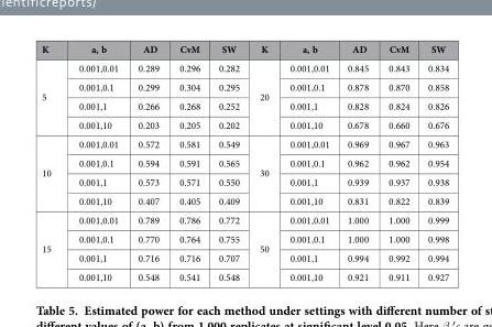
<table><thead><tr><td>K</td><td>a, b</td><td>AD</td><td>CvM</td><td>SW</td><td>K</td><td>a, b</td><td>AD</td><td>CvM</td><td>SW</td></tr></thead><tbody><tr><td rowspan="4">5</td><td>0.001,0.01</td><td>0.289</td><td>0.296</td><td>0.282</td><td rowspan="4">20</td><td>0.001,0.01</td><td>0.845</td><td>0.843</td><td>0.834</td></tr><tr><td>0.001,0.1</td><td>0.299</td><td>0.304</td><td>0.295</td><td>0.001,0.1</td><td>0.878</td><td>0.870</td><td>0.858</td></tr><tr><td>0.001,1</td><td>0.266</td><td>0.268</td><td>0.252</td><td>0.001,1</td><td>0.828</td><td>0.824</td><td>0.826</td></tr><tr><td>0.001,10</td><td>0.203</td><td>0.205</td><td>0.202</td><td>0.001,10</td><td>0.678</td><td>0.660</td><td>0.676</td></tr><tr><td rowspan="4">10</td><td>0.001,0.01</td><td>0.572</td><td>0.581</td><td>0.549</td><td rowspan="4">30</td><td>0.001,0.01</td><td>0.969</td><td>0.967</td><td>0.963</td></tr><tr><td>0.001,0.1</td><td>0.594</td><td>0.591</td><td>0.565</td><td>0.001,0.1</td><td>0.962</td><td>0.962</td><td>0.954</td></tr><tr><td>0.001,1</td><td>0.573</td><td>0.571</td><td>0.550</td><td>0.001,1</td><td>0.939</td><td>0.937</td><td>0.938</td></tr><tr><td>0.001,10</td><td>0.407</td><td>0.405</td><td>0.409</td><td>0.001,10</td><td>0.831</td><td>0.822</td><td>0.839</td></tr><tr><td rowspan="4">15</td><td>0.001,0.01</td><td>0.789</td><td>0.786</td><td>0.772</td><td rowspan="4">50</td><td>0.001,0.01</td><td>1.000</td><td>1.000</td><td>0.999</td></tr><tr><td>0.001,0.1</td><td>0.770</td><td>0.764</td><td>0.755</td><td>0.001,0.1</td><td>1.000</td><td>1.000</td><td>0.998</td></tr><tr><td>0.001,1</td><td>0.716</td><td>0.716</td><td>0.707</td><td>0.001,1</td><td>0.994</td><td>0.992</td><td>0.994</td></tr><tr><td>0.001,10</td><td>0.548</td><td>0.541</td><td>0.548</td><td>0.001,10</td><td>0.921</td><td>0.911</td><td>0.927</td></tr></tbody></table>